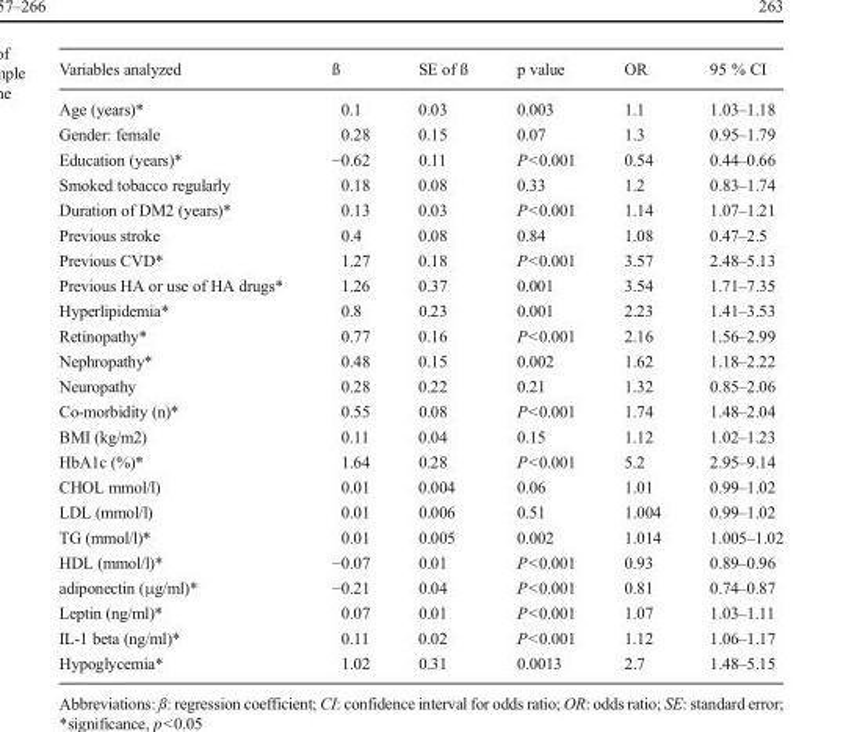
<table><thead><tr><td>Variables analyzed</td><td>ß</td><td>SE of ß</td><td>p value</td><td>OR</td><td>95 % CI</td></tr></thead><tbody><tr><td>Age (years)*</td><td>0.1</td><td>0.03</td><td>0.003</td><td>1.1</td><td>1.03–1.18</td></tr><tr><td>Gender: female</td><td>0.28</td><td>0.15</td><td>0.07</td><td>1.3</td><td>0.95–1.79</td></tr><tr><td>Education (years)*</td><td>−0.62</td><td>0.11</td><td>P&lt;0.001</td><td>0.54</td><td>0.44–0.66</td></tr><tr><td>Smoked tobacco regularly</td><td>0.18</td><td>0.08</td><td>0.33</td><td>1.2</td><td>0.83–1.74</td></tr><tr><td>Duration of DM2 (years)*</td><td>0.13</td><td>0.03</td><td>P&lt;0.001</td><td>1.14</td><td>1.07–1.21</td></tr><tr><td>Previous stroke</td><td>0.4</td><td>0.08</td><td>0.84</td><td>1.08</td><td>0.47–2.5</td></tr><tr><td>Previous CVD*</td><td>1.27</td><td>0.18</td><td>P&lt;0.001</td><td>3.57</td><td>2.48–5.13</td></tr><tr><td>Previous HA or use of HA drugs*</td><td>1.26</td><td>0.37</td><td>0.001</td><td>3.54</td><td>1.71–7.35</td></tr><tr><td>Hyperlipidemia*</td><td>0.8</td><td>0.23</td><td>0.001</td><td>2.23</td><td>1.41–3.53</td></tr><tr><td>Retinopathy*</td><td>0.77</td><td>0.16</td><td>P&lt;0.001</td><td>2.16</td><td>1.56–2.99</td></tr><tr><td>Nephropathy*</td><td>0.48</td><td>0.15</td><td>0.002</td><td>1.62</td><td>1.18–2.22</td></tr><tr><td>Neuropathy</td><td>0.28</td><td>0.22</td><td>0.21</td><td>1.32</td><td>0.85–2.06</td></tr><tr><td>Co-morbidity (n)*</td><td>0.55</td><td>0.08</td><td>P&lt;0.001</td><td>1.74</td><td>1.48–2.04</td></tr><tr><td>BMI (kg/m2)</td><td>0.11</td><td>0.04</td><td>0.15</td><td>1.12</td><td>1.02–1.23</td></tr><tr><td>HbA1c (%)*</td><td>1.64</td><td>0.28</td><td>P&lt;0.001</td><td>5.2</td><td>2.95–9.14</td></tr><tr><td>CHOL mmol/l)</td><td>0.01</td><td>0.004</td><td>0.06</td><td>1.01</td><td>0.99–1.02</td></tr><tr><td>LDL (mmol/l)</td><td>0.01</td><td>0.006</td><td>0.51</td><td>1.004</td><td>0.99–1.02</td></tr><tr><td>TG (mmol/l)*</td><td>0.01</td><td>0.005</td><td>0.002</td><td>1.014</td><td>1.005–1.02</td></tr><tr><td>HDL (mmol/l)*</td><td>−0.07</td><td>0.01</td><td>P&lt;0.001</td><td>0.93</td><td>0.89–0.96</td></tr><tr><td>adiponectin (μg/ml)*</td><td>−0.21</td><td>0.04</td><td>P&lt;0.001</td><td>0.81</td><td>0.74–0.87</td></tr><tr><td>Leptin (ng/ml)*</td><td>0.07</td><td>0.01</td><td>P&lt;0.001</td><td>1.07</td><td>1.03–1.11</td></tr><tr><td>IL-1 beta (ng/ml)*</td><td>0.11</td><td>0.02</td><td>P&lt;0.001</td><td>1.12</td><td>1.06–1.17</td></tr><tr><td>Hypoglycemia*</td><td>1.02</td><td>0.31</td><td>0.0013</td><td>2.7</td><td>1.48–5.15</td></tr></tbody></table>